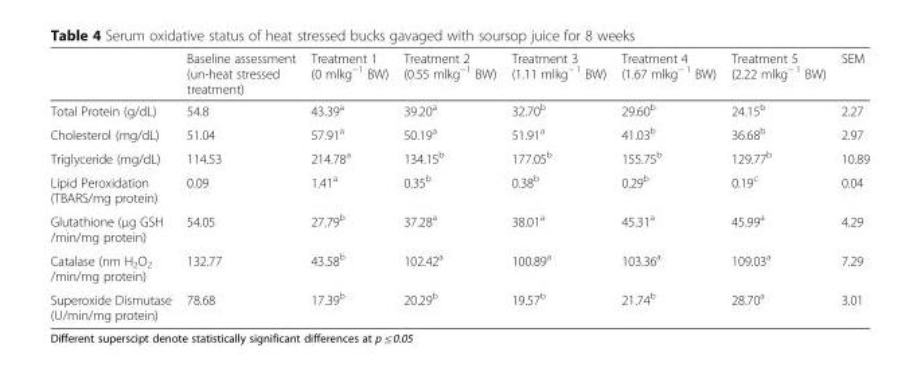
<table><thead><tr><td></td><td>Baseline assessment (un-heat stressed treatment)</td><td>Treatment 1 (0 mlkg<sup>−1</sup> BW)</td><td>Treatment 2 (0.55 mlkg<sup>−1</sup> BW)</td><td>Treatment 3 (1.11 mlkg<sup>− 1</sup> BW)</td><td>Treatment 4 (1.67 mlkg<sup>− 1</sup> BW)</td><td>Treatment 5 (2.22 mlkg<sup>− 1</sup> BW)</td><td>SEM</td></tr></thead><tbody><tr><td>Total Protein (g/dL)</td><td>54.8</td><td>43.39<sup>a</sup></td><td>39.20<sup>a</sup></td><td>32.70<sup>b</sup></td><td>29.60<sup>b</sup></td><td>24.15<sup>b</sup></td><td>2.27</td></tr><tr><td>Cholesterol (mg/dL)</td><td>51.04</td><td>57.91<sup>a</sup></td><td>50.19<sup>a</sup></td><td>51.91<sup>a</sup></td><td>41.03<sup>b</sup></td><td>36.68<sup>b</sup></td><td>2.97</td></tr><tr><td>Triglyceride (mg/dL)</td><td>114.53</td><td>214.78<sup>a</sup></td><td>134.15<sup>b</sup></td><td>177.05<sup>b</sup></td><td>155.75<sup>b</sup></td><td>129.77<sup>b</sup></td><td>10.89</td></tr><tr><td>Lipid Peroxidation (TBARS/mg protein)</td><td>0.09</td><td>1.41<sup>a</sup></td><td>0.35<sup>b</sup></td><td>0.38<sup>b</sup></td><td>0.29<sup>b</sup></td><td>0.19<sup>c</sup></td><td>0.04</td></tr><tr><td>Glutathione (μg GSH /min/mg protein)</td><td>54.05</td><td>27.79<sup>b</sup></td><td>37.28<sup>a</sup></td><td>38.01<sup>a</sup></td><td>45.31<sup>a</sup></td><td>45.99<sup>a</sup></td><td>4.29</td></tr><tr><td>Catalase (nm H<sub>2</sub>O<sub>2</sub> /min/mg protein)</td><td>132.77</td><td>43.58<sup>b</sup></td><td>102.42<sup>a</sup></td><td>100.89<sup>a</sup></td><td>103.36<sup>a</sup></td><td>109.03<sup>a</sup></td><td>7.29</td></tr><tr><td>Superoxide Dismutase (U/min/mg protein)</td><td>78.68</td><td>17.39<sup>b</sup></td><td>20.29<sup>b</sup></td><td>19.57<sup>b</sup></td><td>21.74<sup>b</sup></td><td>28.70<sup>a</sup></td><td>3.01</td></tr></tbody></table>